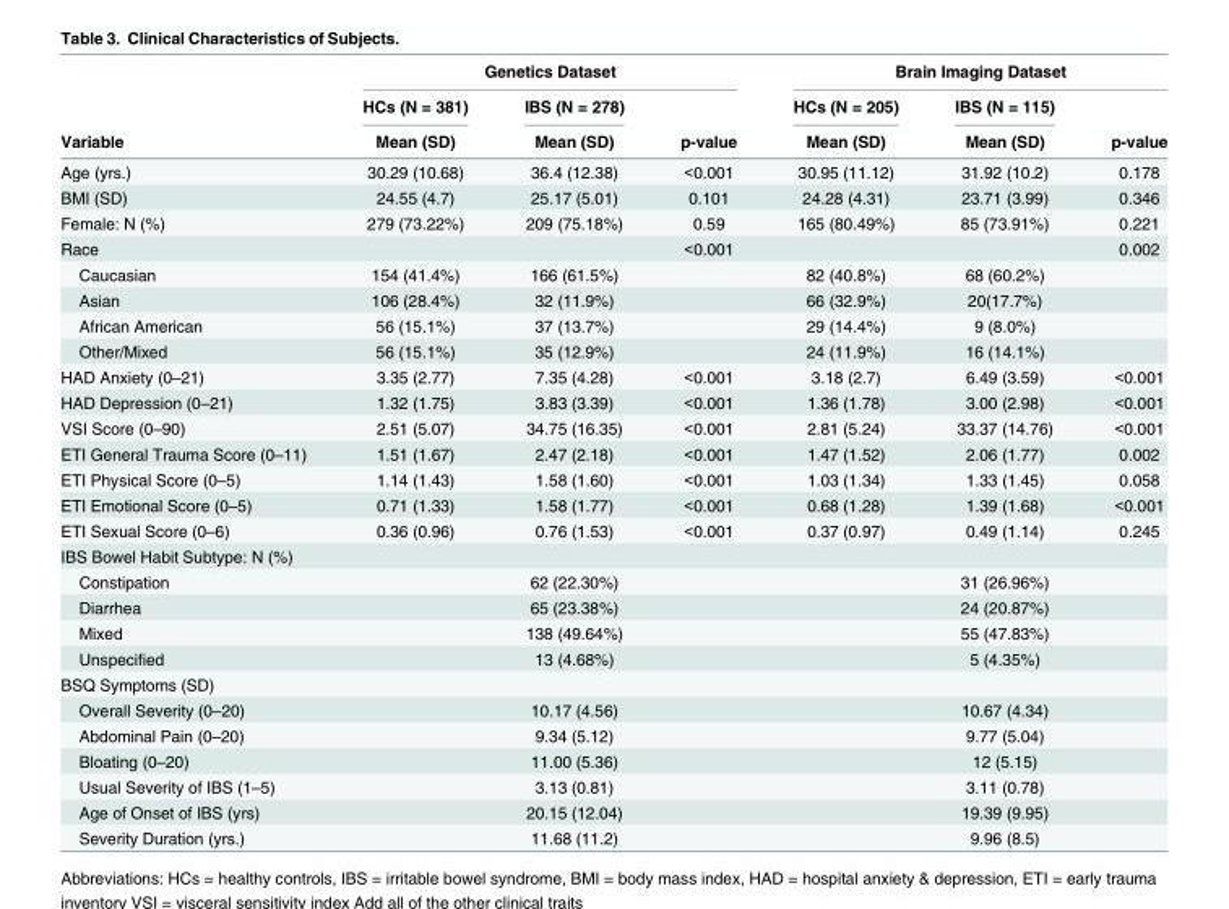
<table><thead><tr><td rowspan="3">Variable</td><td colspan="3">Genetics Dataset</td><td colspan="3">Brain Imaging Dataset</td></tr><tr><td rowspan="2">HCs (N = 381) Mean (SD)</td><td rowspan="2">IBS (N = 278) Mean (SD)</td><td rowspan="2">p-value</td><td rowspan="2">HCs (N = 205) Mean (SD)</td><td rowspan="2">IBS (N = 115) Mean (SD)</td><td rowspan="2">p-value</td></tr><tr></tr></thead><tbody><tr><td>Age (yrs.)</td><td>30.29 (10.68)</td><td>36.4 (12.38)</td><td>&lt;0.001</td><td>30.95 (11.12)</td><td>31.92 (10.2)</td><td>0.178</td></tr><tr><td>BMI (SD)</td><td>24.55 (4.7)</td><td>25.17 (5.01)</td><td>0.101</td><td>24.28 (4.31)</td><td>23.71 (3.99)</td><td>0.346</td></tr><tr><td>Female: N (%)</td><td>279 (73.22%)</td><td>209 (75.18%)</td><td>0.59</td><td>165 (80.49%)</td><td>85 (73.91%)</td><td>0.221</td></tr><tr><td>Race</td><td></td><td></td><td>&lt;0.001</td><td></td><td></td><td>0.002</td></tr><tr><td>Caucasian</td><td>154 (41.4%)</td><td>166 (61.5%)</td><td></td><td>82 (40.8%)</td><td>68 (60.2%)</td><td></td></tr><tr><td>Asian</td><td>106 (28.4%)</td><td>32 (11.9%)</td><td></td><td>66 (32.9%)</td><td>20(17.7%)</td><td></td></tr><tr><td>African American</td><td>56 (15.1%)</td><td>37 (13.7%)</td><td></td><td>29 (14.4%)</td><td>9 (8.0%)</td><td></td></tr><tr><td>Other/Mixed</td><td>56 (15.1%)</td><td>35 (12.9%)</td><td></td><td>24 (11.9%)</td><td>16 (14.1%)</td><td></td></tr><tr><td>HAD Anxiety (0–21)</td><td>3.35 (2.77)</td><td>7.35 (4.28)</td><td>&lt;0.001</td><td>3.18 (2.7)</td><td>6.49 (3.59)</td><td>&lt;0.001</td></tr><tr><td>HAD Depression (0–21)</td><td>1.32 (1.75)</td><td>3.83 (3.39)</td><td>&lt;0.001</td><td>1.36 (1.78)</td><td>3.00 (2.98)</td><td>&lt;0.001</td></tr><tr><td>VSI Score (0–90)</td><td>2.51 (5.07)</td><td>34.75 (16.35)</td><td>&lt;0.001</td><td>2.81 (5.24)</td><td>33.37 (14.76)</td><td>&lt;0.001</td></tr><tr><td>ETI General Trauma Score (0–11)</td><td>1.51 (1.67)</td><td>2.47 (2.18)</td><td>&lt;0.001</td><td>1.47 (1.52)</td><td>2.06 (1.77)</td><td>0.002</td></tr><tr><td>ETI Physical Score (0–5)</td><td>1.14 (1.43)</td><td>1.58 (1.60)</td><td>&lt;0.001</td><td>1.03 (1.34)</td><td>1.33 (1.45)</td><td>0.058</td></tr><tr><td>ETI Emotional Score (0–5)</td><td>0.71 (1.33)</td><td>1.58 (1.77)</td><td>&lt;0.001</td><td>0.68 (1.28)</td><td>1.39 (1.68)</td><td>&lt;0.001</td></tr><tr><td>ETI Sexual Score (0–6)</td><td>0.36 (0.96)</td><td>0.76 (1.53)</td><td>&lt;0.001</td><td>0.37 (0.97)</td><td>0.49 (1.14)</td><td>0.245</td></tr><tr><td colspan="7">IBS Bowel Habit Subtype: N (%)</td></tr><tr><td>Constipation</td><td></td><td>62 (22.30%)</td><td></td><td></td><td>31 (26.96%)</td><td></td></tr><tr><td>Diarrhea</td><td></td><td>65 (23.38%)</td><td></td><td></td><td>24 (20.87%)</td><td></td></tr><tr><td>Mixed</td><td></td><td>138 (49.64%)</td><td></td><td></td><td>55 (47.83%)</td><td></td></tr><tr><td>Unspecified</td><td></td><td>13 (4.68%)</td><td></td><td></td><td>5 (4.35%)</td><td></td></tr><tr><td colspan="7">BSQ Symptoms (SD)</td></tr><tr><td>Overall Severity (0–20)</td><td></td><td>10.17 (4.56)</td><td></td><td></td><td>10.67 (4.34)</td><td></td></tr><tr><td>Abdominal Pain (0–20)</td><td></td><td>9.34 (5.12)</td><td></td><td></td><td>9.77 (5.04)</td><td></td></tr><tr><td>Bloating (0–20)</td><td></td><td>11.00 (5.36)</td><td></td><td></td><td>12 (5.15)</td><td></td></tr><tr><td>Usual Severity of IBS (1–5)</td><td></td><td>3.13 (0.81)</td><td></td><td></td><td>3.11 (0.78)</td><td></td></tr><tr><td>Age of Onset of IBS (yrs)</td><td></td><td>20.15 (12.04)</td><td></td><td></td><td>19.39 (9.95)</td><td></td></tr><tr><td>Severity Duration (yrs.)</td><td></td><td>11.68 (11.2)</td><td></td><td></td><td>9.96 (8.5)</td><td></td></tr></tbody></table>